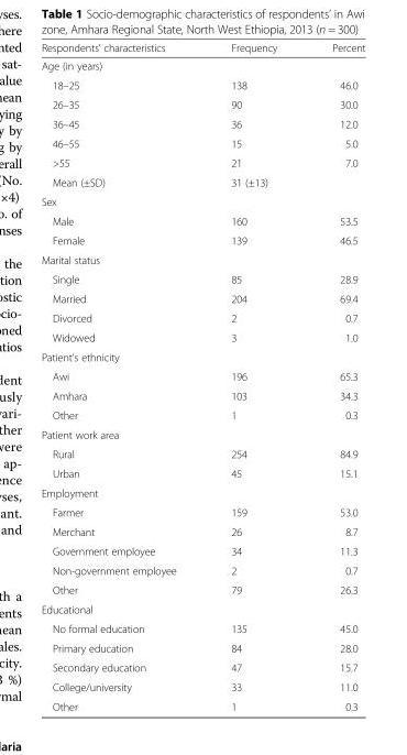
<table><thead><tr><td>Respondents’ characteristics</td><td>Frequency</td><td>Percent</td></tr></thead><tbody><tr><td colspan="3">Age (in years)</td></tr><tr><td>18–25</td><td>138</td><td>46.0</td></tr><tr><td>26–35</td><td>90</td><td>30.0</td></tr><tr><td>36–45</td><td>36</td><td>12.0</td></tr><tr><td>46–55</td><td>15</td><td>5.0</td></tr><tr><td>&gt;55</td><td>21</td><td>7.0</td></tr><tr><td>Mean (±SD)</td><td>31 (±13)</td><td></td></tr><tr><td colspan="3">Sex</td></tr><tr><td>Male</td><td>160</td><td>53.5</td></tr><tr><td>Female</td><td>139</td><td>46.5</td></tr><tr><td colspan="3">Marital status</td></tr><tr><td>Single</td><td>85</td><td>28.9</td></tr><tr><td>Married</td><td>204</td><td>69.4</td></tr><tr><td>Divorced</td><td>2</td><td>0.7</td></tr><tr><td>Widowed</td><td>3</td><td>1.0</td></tr><tr><td colspan="3">Patient’s ethnicity</td></tr><tr><td>Awi</td><td>196</td><td>65.3</td></tr><tr><td>Amhara</td><td>103</td><td>34.3</td></tr><tr><td>Other</td><td>1</td><td>0.3</td></tr><tr><td colspan="3">Patient work area</td></tr><tr><td>Rural</td><td>254</td><td>84.9</td></tr><tr><td>Urban</td><td>45</td><td>15.1</td></tr><tr><td colspan="3">Employment</td></tr><tr><td>Farmer</td><td>159</td><td>53.0</td></tr><tr><td>Merchant</td><td>26</td><td>8.7</td></tr><tr><td>Government employee</td><td>34</td><td>11.3</td></tr><tr><td>Non-government employee</td><td>2</td><td>0.7</td></tr><tr><td>Other</td><td>79</td><td>26.3</td></tr><tr><td colspan="3">Educational</td></tr><tr><td>No formal education</td><td>135</td><td>45.0</td></tr><tr><td>Primary education</td><td>84</td><td>28.0</td></tr><tr><td>Secondary education</td><td>47</td><td>15.7</td></tr><tr><td>College/university</td><td>33</td><td>11.0</td></tr><tr><td>Other</td><td>1</td><td>0.3</td></tr></tbody></table>